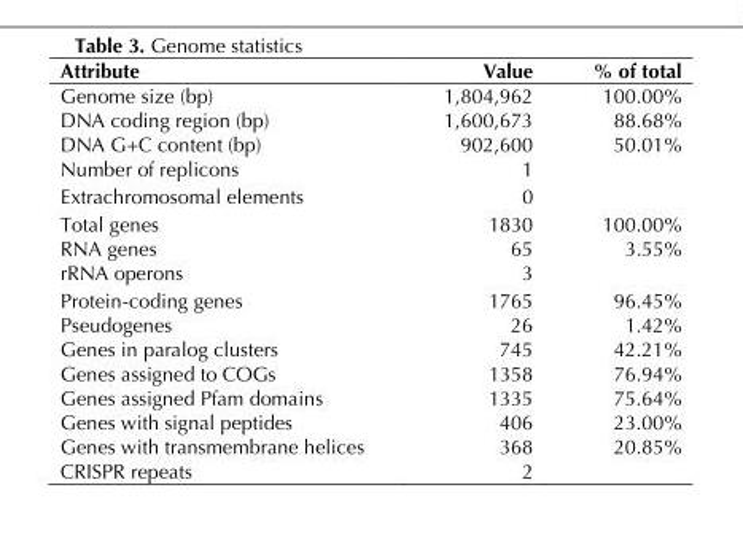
<table><thead><tr><td>Attribute</td><td>Value</td><td>% of total</td></tr></thead><tbody><tr><td>Genome size (bp)</td><td>1,804,962</td><td>100.00%</td></tr><tr><td>DNA coding region (bp)</td><td>1,600,673</td><td>88.68%</td></tr><tr><td>DNA G+C content (bp)</td><td>902,600</td><td>50.01%</td></tr><tr><td>Number of replicons</td><td>1</td><td></td></tr><tr><td>Extrachromosomal elements</td><td>0</td><td></td></tr><tr><td>Total genes</td><td>1830</td><td>100.00%</td></tr><tr><td>RNA genes</td><td>65</td><td>3.55%</td></tr><tr><td>rRNA operons</td><td>3</td><td></td></tr><tr><td>Protein-coding genes</td><td>1765</td><td>96.45%</td></tr><tr><td>Pseudogenes</td><td>26</td><td>1.42%</td></tr><tr><td>Genes in paralog clusters</td><td>745</td><td>42.21%</td></tr><tr><td>Genes assigned to COGs</td><td>1358</td><td>76.94%</td></tr><tr><td>Genes assigned Pfam domains</td><td>1335</td><td>75.64%</td></tr><tr><td>Genes with signal peptides</td><td>406</td><td>23.00%</td></tr><tr><td>Genes with transmembrane helices</td><td>368</td><td>20.85%</td></tr><tr><td>CRISPR repeats</td><td>2</td><td></td></tr></tbody></table>